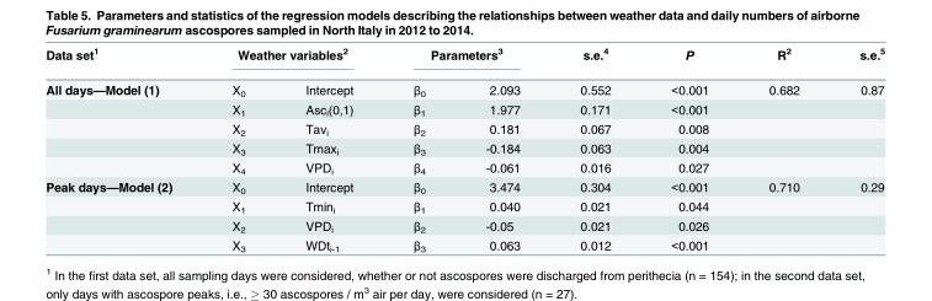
<table><thead><tr><td rowspan="2">Data set<sup>1</sup> All days—Model (1)</td><td colspan="2">Weather variables<sup>2</sup></td><td colspan="2">Parameters<sup>3</sup></td><td rowspan="2">s.e.<sup>4</sup> 0.552</td><td rowspan="2">P &lt;0.001</td><td rowspan="2">R<sup>2</sup> 0.682</td><td rowspan="2">s.e.<sup>5</sup> 0.87</td></tr><tr><td>X<sub>0</sub></td><td>Intercept</td><td>β<sub>0</sub></td><td>2.093</td></tr></thead><tbody><tr><td></td><td>X<sub>1</sub></td><td>Asc<sub>i</sub>(0,1)</td><td>β<sub>1</sub></td><td>1.977</td><td>0.171</td><td>&lt;0.001</td><td></td><td></td></tr><tr><td></td><td>X<sub>2</sub></td><td>Tav<sub>i</sub></td><td>β<sub>2</sub></td><td>0.181</td><td>0.067</td><td>0.008</td><td></td><td></td></tr><tr><td></td><td>X<sub>3</sub></td><td>Tmax<sub>i</sub></td><td>β<sub>3</sub></td><td>-0.184</td><td>0.063</td><td>0.004</td><td></td><td></td></tr><tr><td></td><td>X<sub>4</sub></td><td>VPD<sub>i</sub></td><td>β<sub>4</sub></td><td>-0.061</td><td>0.016</td><td>0.027</td><td></td><td></td></tr><tr><td rowspan="4">Peak days—Model (2)</td><td>X<sub>0</sub></td><td>Intercept</td><td>β<sub>0</sub></td><td>3.474</td><td>0.304</td><td>&lt;0.001</td><td>0.710</td><td>0.29</td></tr><tr><td>X<sub>1</sub></td><td>Tmin<sub>i</sub></td><td>β<sub>1</sub></td><td>0.040</td><td>0.021</td><td>0.044</td><td></td><td></td></tr><tr><td>X<sub>2</sub></td><td>VPD<sub>i</sub></td><td>β<sub>2</sub></td><td>-0.05</td><td>0.021</td><td>0.026</td><td></td><td></td></tr><tr><td>X<sub>3</sub></td><td>WDt<sub>i-1</sub></td><td>β<sub>3</sub></td><td>0.063</td><td>0.012</td><td>&lt;0.001</td><td></td><td></td></tr></tbody></table>